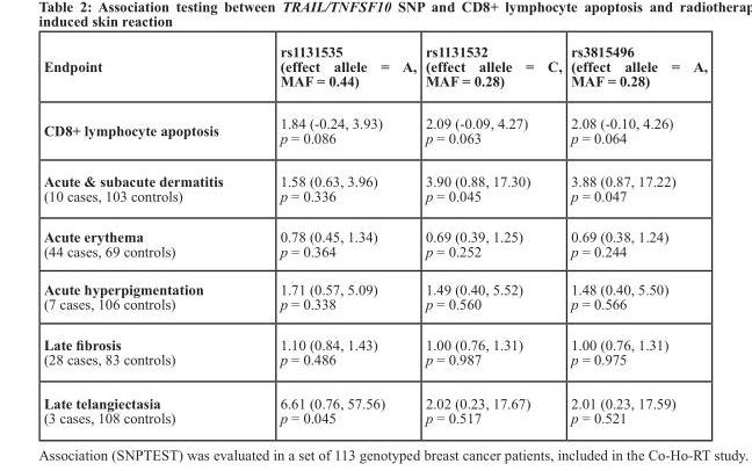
<table><thead><tr><td>Endpoint</td><td>rs1131535 (effect allele = A, MAF = 0.44)</td><td>rs1131532 (effect allele = C, MAF = 0.28)</td><td>rs3815496 (effect allele = A, MAF = 0.28)</td></tr></thead><tbody><tr><td>CD8+ lymphocyte apoptosis</td><td>1.84 (-0.24, 3.93) p = 0.086</td><td>2.09 (-0.09, 4.27) p = 0.063</td><td>2.08 (-0.10, 4.26) p = 0.064</td></tr><tr><td>Acute &amp; subacute dermatitis (10 cases, 103 controls)</td><td>1.58 (0.63, 3.96) p = 0.336</td><td>3.90 (0.88, 17.30) p = 0.045</td><td>3.88 (0.87, 17.22) p = 0.047</td></tr><tr><td>Acute erythema (44 cases, 69 controls)</td><td>0.78 (0.45, 1.34) p = 0.364</td><td>0.69 (0.39, 1.25) p = 0.252</td><td>0.69 (0.38, 1.24) p = 0.244</td></tr><tr><td>Acute hyperpigmentation (7 cases, 106 controls)</td><td>1.71 (0.57, 5.09) p = 0.338</td><td>1.49 (0.40, 5.52) p = 0.560</td><td>1.48 (0.40, 5.50) p = 0.566</td></tr><tr><td>Late fibrosis (28 cases, 83 controls)</td><td>1.10 (0.84, 1.43) p = 0.486</td><td>1.00 (0.76, 1.31) p = 0.987</td><td>1.00 (0.76, 1.31) p = 0.975</td></tr><tr><td>Late telangiectasia (3 cases, 108 controls)</td><td>6.61 (0.76, 57.56) p = 0.045</td><td>2.02 (0.23, 17.67) p = 0.517</td><td>2.01 (0.23, 17.59) p = 0.521</td></tr></tbody></table>